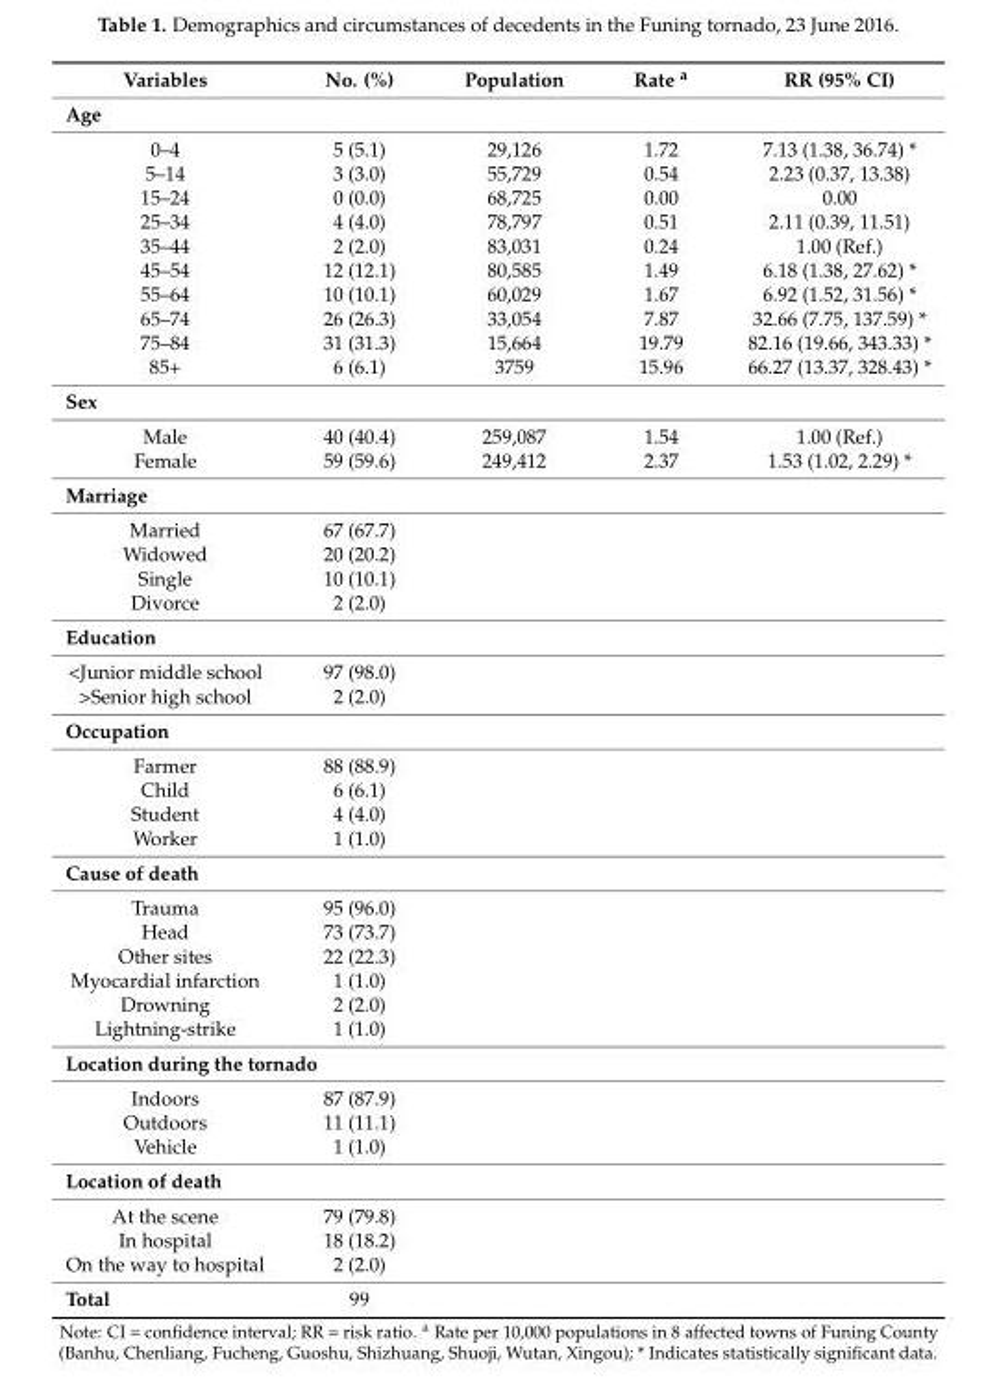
<table><thead><tr><td>Variables</td><td>No. (%)</td><td>Population</td><td>Rate <sup>a</sup></td><td>RR (95% CI)</td></tr></thead><tbody><tr><td colspan="5">Age</td></tr><tr><td>0–4</td><td>5 (5.1)</td><td>29,126</td><td>1.72</td><td>7.13 (1.38, 36.74) *</td></tr><tr><td>5–14</td><td>3 (3.0)</td><td>55,729</td><td>0.54</td><td>2.23 (0.37, 13.38)</td></tr><tr><td>15–24</td><td>0 (0.0)</td><td>68,725</td><td>0.00</td><td>0.00</td></tr><tr><td>25–34</td><td>4 (4.0)</td><td>78,797</td><td>0.51</td><td>2.11 (0.39, 11.51)</td></tr><tr><td>35–44</td><td>2 (2.0)</td><td>83,031</td><td>0.24</td><td>1.00 (Ref.)</td></tr><tr><td>45–54</td><td>12 (12.1)</td><td>80,585</td><td>1.49</td><td>6.18 (1.38, 27.62) *</td></tr><tr><td>55–64</td><td>10 (10.1)</td><td>60,029</td><td>1.67</td><td>6.92 (1.52, 31.56) *</td></tr><tr><td>65–74</td><td>26 (26.3)</td><td>33,054</td><td>7.87</td><td>32.66 (7.75, 137.59) *</td></tr><tr><td>75–84</td><td>31 (31.3)</td><td>15,664</td><td>19.79</td><td>82.16 (19.66, 343.33) *</td></tr><tr><td>85+</td><td>6 (6.1)</td><td>3759</td><td>15.96</td><td>66.27 (13.37, 328.43) *</td></tr><tr><td colspan="5">Sex</td></tr><tr><td>Male</td><td>40 (40.4)</td><td>259,087</td><td>1.54</td><td>1.00 (Ref.)</td></tr><tr><td>Female</td><td>59 (59.6)</td><td>249,412</td><td>2.37</td><td>1.53 (1.02, 2.29) *</td></tr><tr><td colspan="5">Marriage</td></tr><tr><td>Married</td><td>67 (67.7)</td><td></td><td></td><td></td></tr><tr><td>Widowed</td><td>20 (20.2)</td><td></td><td></td><td></td></tr><tr><td>Single</td><td>10 (10.1)</td><td></td><td></td><td></td></tr><tr><td>Divorce</td><td>2 (2.0)</td><td></td><td></td><td></td></tr><tr><td colspan="5">Education</td></tr><tr><td>&lt;Junior middle school</td><td>97 (98.0)</td><td></td><td></td><td></td></tr><tr><td>&gt;Senior high school</td><td>2 (2.0)</td><td></td><td></td><td></td></tr><tr><td colspan="5">Occupation</td></tr><tr><td>Farmer</td><td>88 (88.9)</td><td></td><td></td><td></td></tr><tr><td>Child</td><td>6 (6.1)</td><td></td><td></td><td></td></tr><tr><td>Student</td><td>4 (4.0)</td><td></td><td></td><td></td></tr><tr><td>Worker</td><td>1 (1.0)</td><td></td><td></td><td></td></tr><tr><td colspan="5">Cause of death</td></tr><tr><td>Trauma</td><td>95 (96.0)</td><td></td><td></td><td></td></tr><tr><td>Head</td><td>73 (73.7)</td><td></td><td></td><td></td></tr><tr><td>Other sites</td><td>22 (22.3)</td><td></td><td></td><td></td></tr><tr><td>Myocardial infarction</td><td>1 (1.0)</td><td></td><td></td><td></td></tr><tr><td>Drowning</td><td>2 (2.0)</td><td></td><td></td><td></td></tr><tr><td>Lightning-strike</td><td>1 (1.0)</td><td></td><td></td><td></td></tr><tr><td colspan="5">Location during the tornado</td></tr><tr><td>Indoors</td><td>87 (87.9)</td><td></td><td></td><td></td></tr><tr><td>Outdoors</td><td>11 (11.1)</td><td></td><td></td><td></td></tr><tr><td>Vehicle</td><td>1 (1.0)</td><td></td><td></td><td></td></tr><tr><td colspan="5">Location of death</td></tr><tr><td>At the scene</td><td>79 (79.8)</td><td></td><td></td><td></td></tr><tr><td>In hospital</td><td>18 (18.2)</td><td></td><td></td><td></td></tr><tr><td>On the way to hospital</td><td>2 (2.0)</td><td></td><td></td><td></td></tr><tr><td>Total</td><td>99</td><td></td><td></td><td></td></tr></tbody></table>